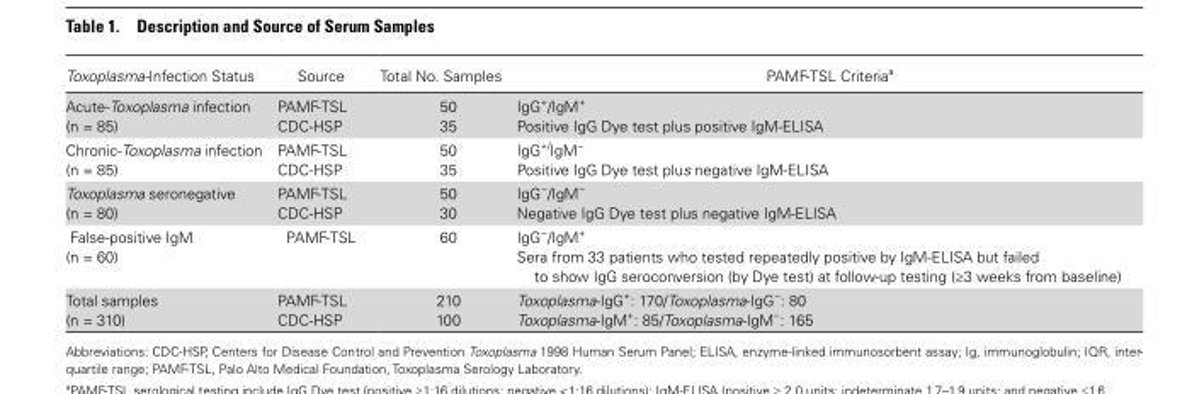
<table><thead><tr><td>Toxoplasma-Infection Status</td><td>Source</td><td>Total No. Samples</td><td>PAMF-TSL Criteria<sup>a</sup></td></tr></thead><tbody><tr><td>Acute-Toxoplasma infection (n = 85)</td><td>PAMF-TSL CDC-HSP</td><td>50 35</td><td>IgG<sup>+</sup>/IgM<sup>+</sup> Positive IgG Dye test plus positive IgM-ELISA</td></tr><tr><td>Chronic-Toxoplasma infection (n = 85)</td><td>PAMF-TSL CDC-HSP</td><td>50 35</td><td>IgG<sup>+/</sup>IgM<sup>−</sup> Positive IgG Dye test plus negative IgM-ELISA</td></tr><tr><td>Toxoplasma seronegative (n = 80)</td><td>PAMF-TSL CDC-HSP</td><td>50 30</td><td>IgG<sup>−</sup>/IgM<sup>−</sup> Negative IgG Dye test plus negative IgM-ELISA</td></tr><tr><td>False-positive IgM (n = 60)</td><td>PAMF-TSL</td><td>60</td><td>IgG<sup>−</sup>/IgM<sup>+</sup> Sera from 33 patients who tested repeatedly positive by IgM-ELISA but failed to show IgG seroconversion (by Dye test) at follow-up testing (≥3 weeks from baseline)</td></tr><tr><td>Total samples (n = 310)</td><td>PAMF-TSL CDC-HSP</td><td>210 100</td><td>Toxoplasma-IgG<sup>+</sup>: 170/Toxoplasma-IgG<sup>−</sup>: 80 Toxoplasma-IgM<sup>+</sup>: 85/Toxoplasma-IgM<sup>−</sup>: 165</td></tr></tbody></table>